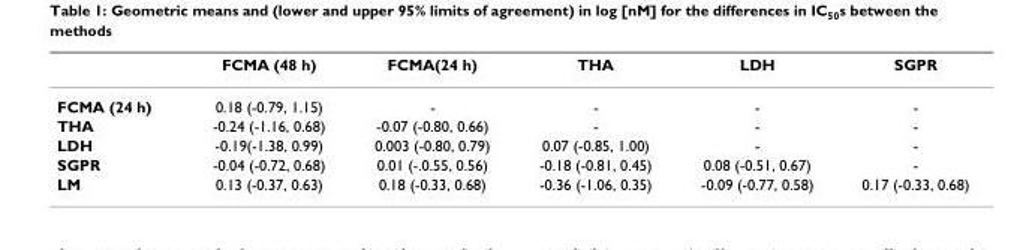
<table><thead><tr><td></td><td>FCMA (48 h)</td><td>FCMA(24 h)</td><td>THA</td><td>LDH</td><td>SGPR</td></tr></thead><tbody><tr><td>FCMA (24 h)</td><td>0.18 (-0.79, 1.15)</td><td>-</td><td>-</td><td>-</td><td>-</td></tr><tr><td>THA</td><td>-0.24 (-1.16, 0.68)</td><td>-0.07 (-0.80, 0.66)</td><td>-</td><td>-</td><td>-</td></tr><tr><td>LDH</td><td>-0.19(-1.38, 0.99)</td><td>0.003 (-0.80, 0.79)</td><td>0.07 (-0.85, 1.00)</td><td>-</td><td>-</td></tr><tr><td>SGPR</td><td>-0.04 (-0.72, 0.68)</td><td>0.01 (-.0.55, 0.56)</td><td>-0.18 (-0.81, 0.45)</td><td>0.08 (-0.51, 0.67)</td><td>-</td></tr><tr><td>LM</td><td>0.13 (-0.37, 0.63)</td><td>0.18 (-0.33, 0.68)</td><td>-0.36 (-1.06, 0.35)</td><td>-0.09 (-0.77, 0.58)</td><td>0.17 (-0.33, 0.68)</td></tr></tbody></table>